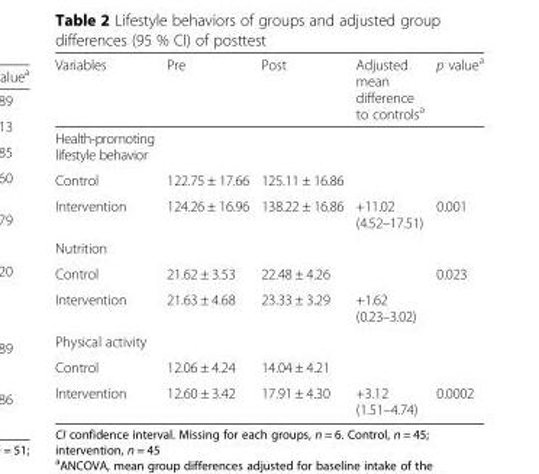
<table><thead><tr><td>Variables</td><td>Pre</td><td>Post</td><td>Adjusted mean difference to controls<sup>a</sup></td><td>p value<sup>a</sup></td></tr></thead><tbody><tr><td colspan="5">Health-promoting lifestyle behavior</td></tr><tr><td>Control</td><td>122.75 ± 17.66</td><td>125.11 ± 16.86</td><td></td><td></td></tr><tr><td>Intervention</td><td>124.26 ± 16.96</td><td>138.22 ± 16.86</td><td>+11.02 (4.52–17.51)</td><td>0.001</td></tr><tr><td colspan="5">Nutrition</td></tr><tr><td>Control</td><td>21.62 ± 3.53</td><td>22.48 ± 4.26</td><td></td><td>0.023</td></tr><tr><td>Intervention</td><td>21.63 ± 4.68</td><td>23.33 ± 3.29</td><td>+1.62 (0.23–3.02)</td><td></td></tr><tr><td colspan="5">Physical activity</td></tr><tr><td>Control</td><td>12.06 ± 4.24</td><td>14.04 ± 4.21</td><td></td><td></td></tr><tr><td>Intervention</td><td>12.60 ± 3.42</td><td>17.91 ± 4.30</td><td>+3.12 (1.51–4.74)</td><td>0.0002</td></tr></tbody></table>